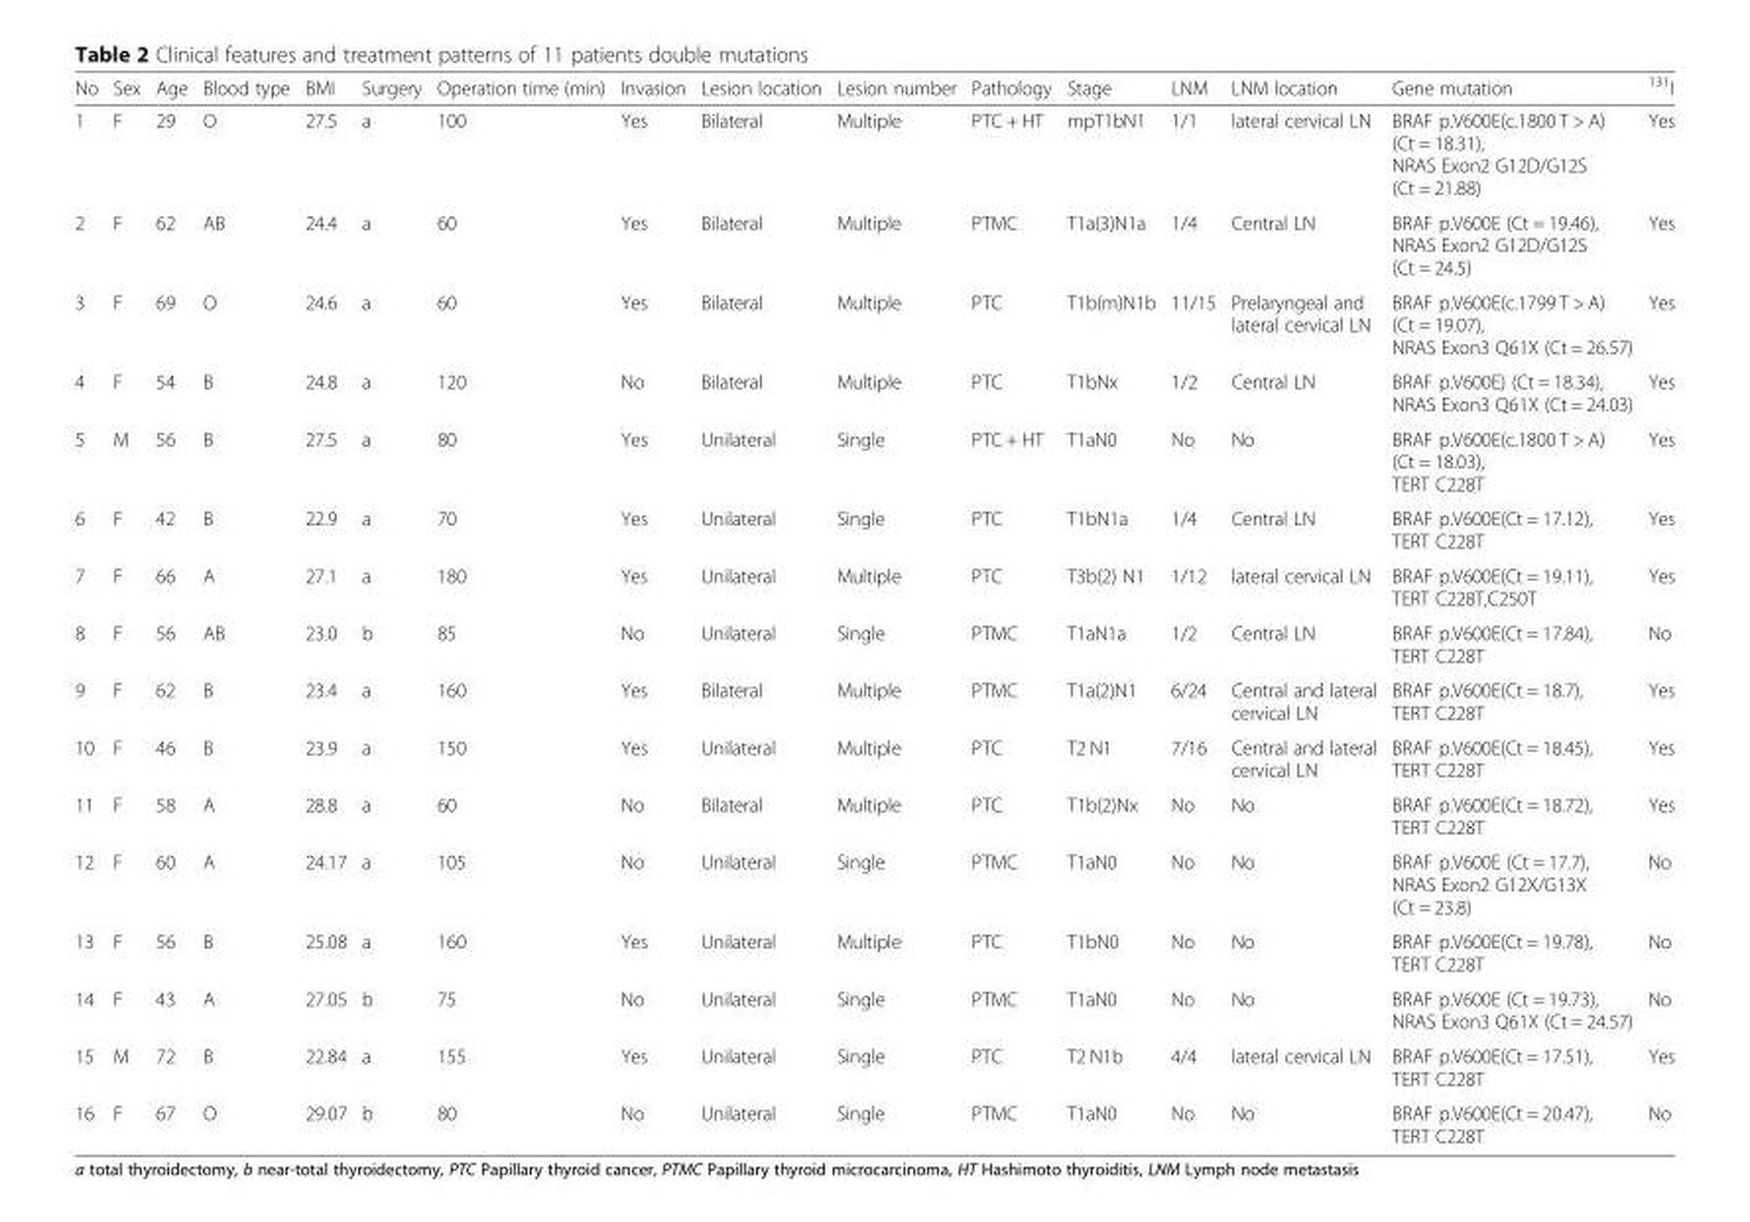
<table><thead><tr><td>No</td><td>Sex</td><td>Age</td><td>Blood type</td><td>BMI</td><td>Surgery</td><td>Operation time (min)</td><td>Invasion</td><td>Lesion location</td><td>Lesion number</td><td>Pathology</td><td>Stage</td><td>LNM</td><td>LNM location</td><td>Gene mutation</td><td><sup>131</sup>I</td></tr></thead><tbody><tr><td>1</td><td>F</td><td>29</td><td>O</td><td>27.5</td><td>a</td><td>100</td><td>Yes</td><td>Bilateral</td><td>Multiple</td><td>PTC + HT</td><td>mpT1bN1</td><td>1/1</td><td>lateral cervical LN</td><td>BRAF p.V600E(c.1800 T &gt; A) (Ct = 18.31), NRAS Exon2 G12D/G12S (Ct = 21.88)</td><td>Yes</td></tr><tr><td>2</td><td>F</td><td>62</td><td>AB</td><td>24.4</td><td>a</td><td>60</td><td>Yes</td><td>Bilateral</td><td>Multiple</td><td>PTMC</td><td>T1a(3)N1a</td><td>1/4</td><td>Central LN</td><td>BRAF p.V600E (Ct = 19.46), NRAS Exon2 G12D/G12S (Ct = 24.5)</td><td>Yes</td></tr><tr><td>3</td><td>F</td><td>69</td><td>O</td><td>24.6</td><td>a</td><td>60</td><td>Yes</td><td>Bilateral</td><td>Multiple</td><td>PTC</td><td>T1b(m)N1b</td><td>11/15</td><td>Prelaryngeal and lateral cervical LN</td><td>BRAF p.V600E(c.1799 T &gt; A) (Ct = 19.07), NRAS Exon3 Q61X (Ct = 26.57)</td><td>Yes</td></tr><tr><td>4</td><td>F</td><td>54</td><td>B</td><td>24.8</td><td>a</td><td>120</td><td>No</td><td>Bilateral</td><td>Multiple</td><td>PTC</td><td>T1bNx</td><td>1/2</td><td>Central LN</td><td>BRAF p.V600E) (Ct = 18.34), NRAS Exon3 Q61X (Ct = 24.03)</td><td>Yes</td></tr><tr><td>5</td><td>M</td><td>56</td><td>B</td><td>27.5</td><td>a</td><td>80</td><td>Yes</td><td>Unilateral</td><td>Single</td><td>PTC + HT</td><td>T1aN0</td><td>No</td><td>No</td><td>BRAF p.V600E(c.1800 T &gt; A) (Ct = 18.03), TERT C228T</td><td>Yes</td></tr><tr><td>6</td><td>F</td><td>42</td><td>B</td><td>22.9</td><td>a</td><td>70</td><td>Yes</td><td>Unilateral</td><td>Single</td><td>PTC</td><td>T1bN1a</td><td>1/4</td><td>Central LN</td><td>BRAF p.V600E(Ct = 17.12), TERT C228T</td><td>Yes</td></tr><tr><td>7</td><td>F</td><td>66</td><td>A</td><td>27.1</td><td>a</td><td>180</td><td>Yes</td><td>Unilateral</td><td>Multiple</td><td>PTC</td><td>T3b(2) N1</td><td>1/12</td><td>lateral cervical LN</td><td>BRAF p.V600E(Ct = 19.11), TERT C228T,C250T</td><td>Yes</td></tr><tr><td>8</td><td>F</td><td>56</td><td>AB</td><td>23.0</td><td>b</td><td>85</td><td>No</td><td>Unilateral</td><td>Single</td><td>PTMC</td><td>T1aN1a</td><td>1/2</td><td>Central LN</td><td>BRAF p.V600E(Ct = 17.84), TERT C228T</td><td>No</td></tr><tr><td>9</td><td>F</td><td>62</td><td>B</td><td>23.4</td><td>a</td><td>160</td><td>Yes</td><td>Bilateral</td><td>Multiple</td><td>PTMC</td><td>T1a(2)N1</td><td>6/24</td><td>Central and lateral cervical LN</td><td>BRAF p.V600E(Ct = 18.7), TERT C228T</td><td>Yes</td></tr><tr><td>10</td><td>F</td><td>46</td><td>B</td><td>23.9</td><td>a</td><td>150</td><td>Yes</td><td>Unilateral</td><td>Multiple</td><td>PTC</td><td>T2 N1</td><td>7/16</td><td>Central and lateral cervical LN</td><td>BRAF p.V600E(Ct = 18.45), TERT C228T</td><td>Yes</td></tr><tr><td>11</td><td>F</td><td>58</td><td>A</td><td>28.8</td><td>a</td><td>60</td><td>No</td><td>Bilateral</td><td>Multiple</td><td>PTC</td><td>T1b(2)Nx</td><td>No</td><td>No</td><td>BRAF p.V600E(Ct = 18.72), TERT C228T</td><td>Yes</td></tr><tr><td>12</td><td>F</td><td>60</td><td>A</td><td>24.17</td><td>a</td><td>105</td><td>No</td><td>Unilateral</td><td>Single</td><td>PTMC</td><td>T1aN0</td><td>No</td><td>No</td><td>BRAF p.V600E (Ct = 17.7), NRAS Exon2 G12X/G13X (Ct = 23.8)</td><td>No</td></tr><tr><td>13</td><td>F</td><td>56</td><td>B</td><td>25.08</td><td>a</td><td>160</td><td>Yes</td><td>Unilateral</td><td>Multiple</td><td>PTC</td><td>T1bN0</td><td>No</td><td>No</td><td>BRAF p.V600E(Ct = 19.78), TERT C228T</td><td>No</td></tr><tr><td>14</td><td>F</td><td>43</td><td>A</td><td>27.05</td><td>b</td><td>75</td><td>No</td><td>Unilateral</td><td>Single</td><td>PTMC</td><td>T1aN0</td><td>No</td><td>No</td><td>BRAF p.V600E (Ct = 19.73), NRAS Exon3 Q61X (Ct = 24.57)</td><td>No</td></tr><tr><td>15</td><td>M</td><td>72</td><td>B</td><td>22.84</td><td>a</td><td>155</td><td>Yes</td><td>Unilateral</td><td>Single</td><td>PTC</td><td>T2 N1b</td><td>4/4</td><td>lateral cervical LN</td><td>BRAF p.V600E(Ct = 17.51), TERT C228T</td><td>Yes</td></tr><tr><td>16</td><td>F</td><td>67</td><td>O</td><td>29.07</td><td>b</td><td>80</td><td>No</td><td>Unilateral</td><td>Single</td><td>PTMC</td><td>T1aN0</td><td>No</td><td>No</td><td>BRAF p.V600E(Ct = 20.47), TERT C228T</td><td>No</td></tr></tbody></table>